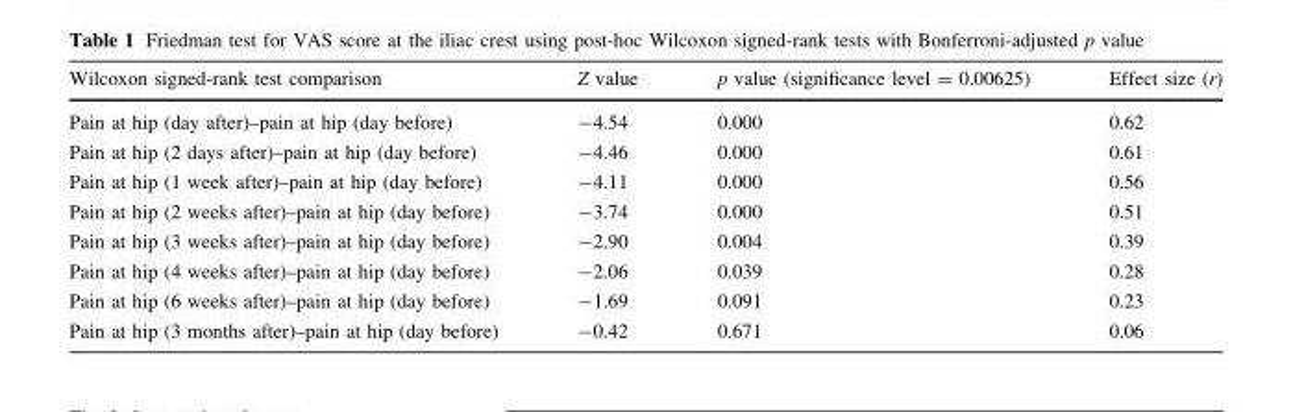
<table><thead><tr><td>Wilcoxon signed-rank test comparison</td><td>Z value</td><td>p value (significance level = 0.00625)</td><td>Effect size (r)</td></tr></thead><tbody><tr><td>Pain at hip (day after)–pain at hip (day before)</td><td>-4.54</td><td>0.000</td><td>0.62</td></tr><tr><td>Pain at hip (2 days after)–pain at hip (day before)</td><td>-4.46</td><td>0.000</td><td>0.61</td></tr><tr><td>Pain at hip (1 week after)–pain at hip (day before)</td><td>-4.11</td><td>0.000</td><td>0.56</td></tr><tr><td>Pain at hip (2 weeks after)–pain at hip (day before)</td><td>-3.74</td><td>0.000</td><td>0.51</td></tr><tr><td>Pain at hip (3 weeks after)–pain at hip (day before)</td><td>-2.90</td><td>0.004</td><td>0.39</td></tr><tr><td>Pain at hip (4 weeks after)–pain at hip (day before)</td><td>-2.06</td><td>0.039</td><td>0.28</td></tr><tr><td>Pain at hip (6 weeks after)–pain at hip (day before)</td><td>-1.69</td><td>0.091</td><td>0.23</td></tr><tr><td>Pain at hip (3 months after)–pain at hip (day before)</td><td>-0.42</td><td>0.671</td><td>0.06</td></tr></tbody></table>